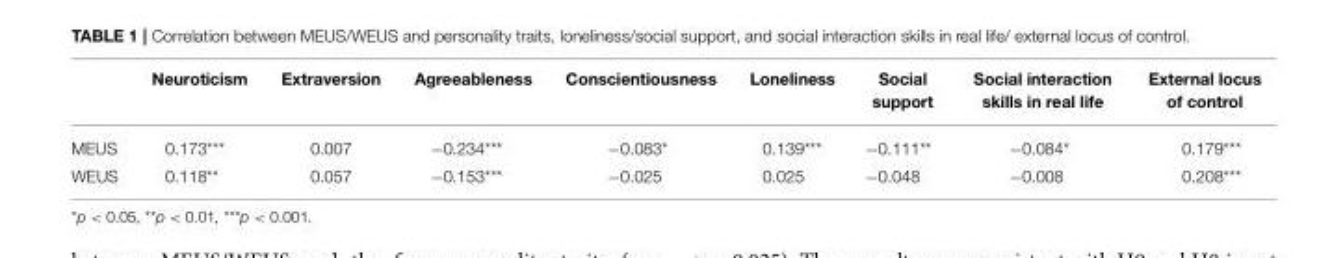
<table><thead><tr><td></td><td>Neuroticism</td><td>Extraversion</td><td>Agreeableness</td><td>Conscientiousness</td><td>Loneliness</td><td>Social support</td><td>Social interaction skills in real life</td><td>External locus of control</td></tr></thead><tbody><tr><td>MEUS</td><td>0.173***</td><td>0.007</td><td>−0.234***</td><td>−0.083*</td><td>0.139***</td><td>−0.111**</td><td>−0.084*</td><td>0.179***</td></tr><tr><td>WEUS</td><td>0.118**</td><td>0.057</td><td>−0.153***</td><td>−0.025</td><td>0.025</td><td>−0.048</td><td>−0.008</td><td>0.208***</td></tr></tbody></table>